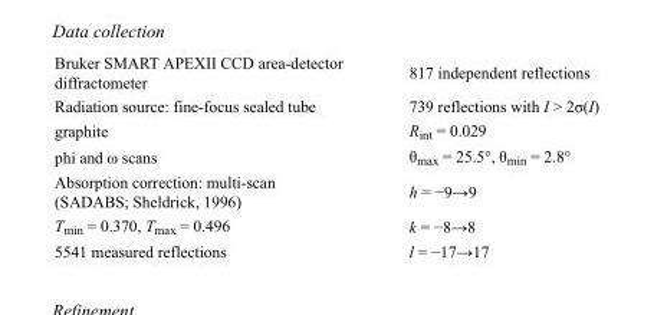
<table><tbody><tr><td>Bruker SMART APEXII CCD area-detector diffractometer</td><td>817 independent reflections</td></tr><tr><td>Radiation source: fine-focus sealed tube</td><td>739 reflections with I &gt; 2σ(I)</td></tr><tr><td>graphite</td><td>R<sub>int</sub> = 0.029</td></tr><tr><td>phi and ω scans</td><td>θ<sub>max</sub> = 25.5°, θ<sub>min</sub> = 2.8°</td></tr><tr><td>Absorption correction: multi-scan (SADABS; Sheldrick, 1996)</td><td>h = −9→9</td></tr><tr><td>T<sub>min</sub> = 0.370, T<sub>max</sub> = 0.496</td><td>k = −8→8</td></tr><tr><td>5541 measured reflections</td><td>l = −17→17</td></tr></tbody></table>